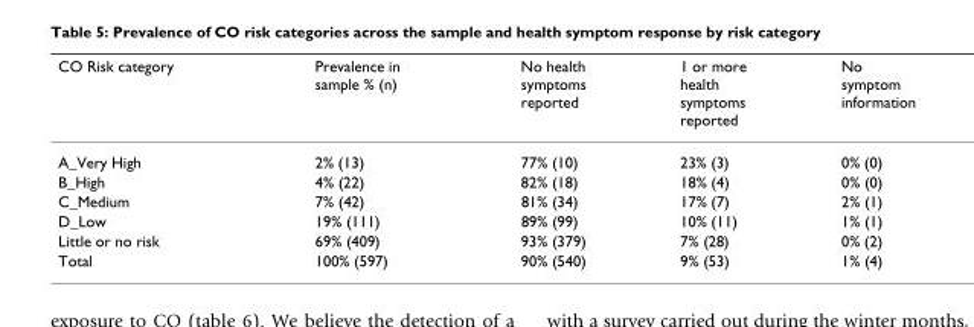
<table><thead><tr><td>CO Risk category</td><td>Prevalence in sample % (n)</td><td>No health symptoms reported</td><td>1 or more health symptoms reported</td><td>No symptom information</td></tr></thead><tbody><tr><td>A_Very High</td><td>2% (13)</td><td>77% (10)</td><td>23% (3)</td><td>0% (0)</td></tr><tr><td>B_High</td><td>4% (22)</td><td>82% (18)</td><td>18% (4)</td><td>0% (0)</td></tr><tr><td>C_Medium</td><td>7% (42)</td><td>81% (34)</td><td>17% (7)</td><td>2% (1)</td></tr><tr><td>D_Low</td><td>19% (111)</td><td>89% (99)</td><td>10% (11)</td><td>1% (1)</td></tr><tr><td>Little or no risk</td><td>69% (409)</td><td>93% (379)</td><td>7% (28)</td><td>0% (2)</td></tr><tr><td>Total</td><td>100% (597)</td><td>90% (540)</td><td>9% (53)</td><td>1% (4)</td></tr></tbody></table>